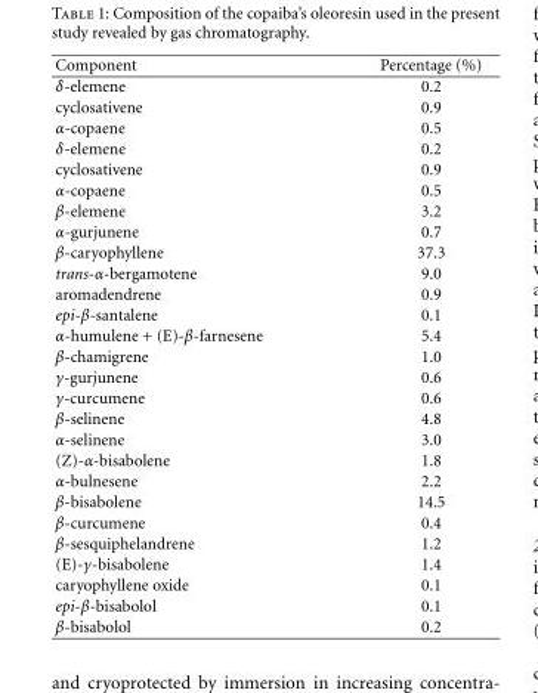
<table><thead><tr><td>Component</td><td>Percentage (%)</td></tr></thead><tbody><tr><td>δ-elemene</td><td>0.2</td></tr><tr><td>cyclosativene</td><td>0.9</td></tr><tr><td>α-copaene</td><td>0.5</td></tr><tr><td>δ-elemene</td><td>0.2</td></tr><tr><td>cyclosativene</td><td>0.9</td></tr><tr><td>α-copaene</td><td>0.5</td></tr><tr><td>β-elemene</td><td>3.2</td></tr><tr><td>α-gurjunene</td><td>0.7</td></tr><tr><td>β-caryophyllene</td><td>37.3</td></tr><tr><td>trans-α-bergamotene</td><td>9.0</td></tr><tr><td>aromadendrene</td><td>0.9</td></tr><tr><td>epi-β-santalene</td><td>0.1</td></tr><tr><td>α-humulene + (E)-β-farnesene</td><td>5.4</td></tr><tr><td>β-chamigrene</td><td>1.0</td></tr><tr><td>γ-gurjunene</td><td>0.6</td></tr><tr><td>γ-curcumene</td><td>0.6</td></tr><tr><td>β-selinene</td><td>4.8</td></tr><tr><td>α-selinene</td><td>3.0</td></tr><tr><td>(Z)-α-bisabolene</td><td>1.8</td></tr><tr><td>α-bulnesene</td><td>2.2</td></tr><tr><td>β-bisabolene</td><td>14.5</td></tr><tr><td>β-curcumene</td><td>0.4</td></tr><tr><td>β-sesquiphelandrene</td><td>1.2</td></tr><tr><td>(E)-γ-bisabolene</td><td>1.4</td></tr><tr><td>caryophyllene oxide</td><td>0.1</td></tr><tr><td>epi-β-bisabolol</td><td>0.1</td></tr><tr><td>β-bisabolol</td><td>0.2</td></tr></tbody></table>